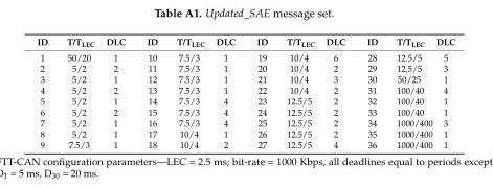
<table><thead><tr><td>ID</td><td>T/T<sub>LEC</sub></td><td>DLC</td><td>ID</td><td>T/T<sub>LEC</sub></td><td>DLC</td><td>ID</td><td>T/T<sub>LEC</sub></td><td>DLC</td><td>ID</td><td>T/T<sub>LEC</sub></td><td>DLC</td></tr></thead><tbody><tr><td>1</td><td>50/20</td><td>1</td><td>10</td><td>7.5/3</td><td>1</td><td>19</td><td>10/4</td><td>6</td><td>28</td><td>12.5/5</td><td>5</td></tr><tr><td>2</td><td>5/2</td><td>2</td><td>11</td><td>7.5/3</td><td>1</td><td>20</td><td>10/4</td><td>2</td><td>29</td><td>12.5/5</td><td>3</td></tr><tr><td>3</td><td>5/2</td><td>1</td><td>12</td><td>7.5/3</td><td>1</td><td>21</td><td>10/4</td><td>3</td><td>30</td><td>50/25</td><td>1</td></tr><tr><td>4</td><td>5/2</td><td>2</td><td>13</td><td>7.5/3</td><td>1</td><td>22</td><td>10/4</td><td>2</td><td>31</td><td>100/40</td><td>4</td></tr><tr><td>5</td><td>5/2</td><td>1</td><td>14</td><td>7.5/3</td><td>4</td><td>23</td><td>12.5/5</td><td>2</td><td>32</td><td>100/40</td><td>1</td></tr><tr><td>6</td><td>5/2</td><td>2</td><td>15</td><td>7.5/3</td><td>4</td><td>24</td><td>12.5/5</td><td>2</td><td>33</td><td>100/40</td><td>1</td></tr><tr><td>7</td><td>5/2</td><td>1</td><td>16</td><td>7.5/3</td><td>4</td><td>25</td><td>12.5/5</td><td>2</td><td>34</td><td>1000/400</td><td>3</td></tr><tr><td>8</td><td>5/2</td><td>1</td><td>17</td><td>10/4</td><td>1</td><td>26</td><td>12.5/5</td><td>2</td><td>35</td><td>1000/400</td><td>1</td></tr><tr><td>9</td><td>7.5/3</td><td>1</td><td>18</td><td>10/4</td><td>2</td><td>27</td><td>12.5/5</td><td>4</td><td>36</td><td>1000/400</td><td>1</td></tr></tbody></table>